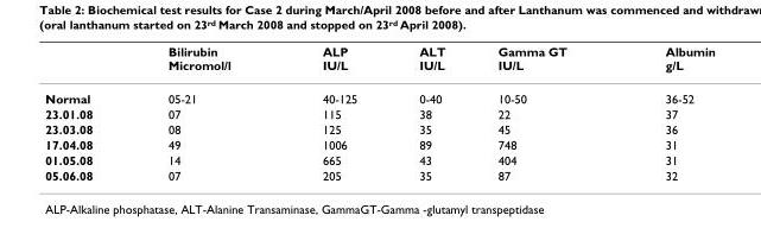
<table><thead><tr><td></td><td>Bilirubin Micromol/l</td><td>ALP IU/L</td><td>ALT IU/L</td><td>Gamma GT IU/L</td><td>Albumin g/L</td></tr></thead><tbody><tr><td>Normal</td><td>05-21</td><td>40-125</td><td>0-40</td><td>10-50</td><td>36-52</td></tr><tr><td>23.01.08</td><td>07</td><td>115</td><td>38</td><td>22</td><td>37</td></tr><tr><td>23.03.08</td><td>08</td><td>125</td><td>35</td><td>45</td><td>36</td></tr><tr><td>17.04.08</td><td>49</td><td>1006</td><td>89</td><td>748</td><td>31</td></tr><tr><td>01.05.08</td><td>14</td><td>665</td><td>43</td><td>404</td><td>31</td></tr><tr><td>05.06.08</td><td>07</td><td>205</td><td>35</td><td>87</td><td>32</td></tr></tbody></table>